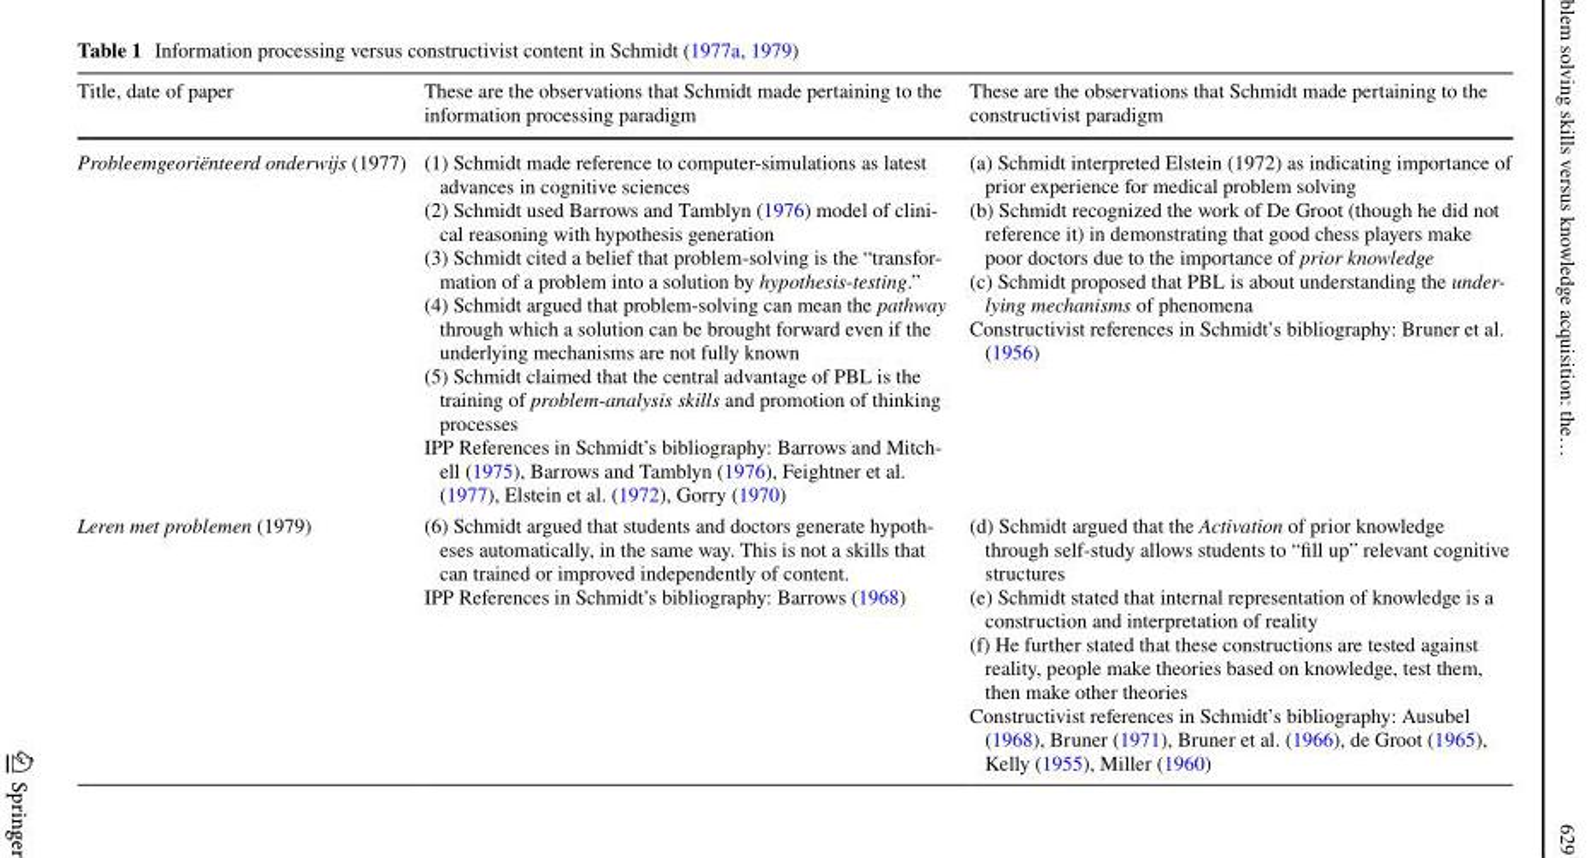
<table><thead><tr><td>Title, date of paper</td><td>These are the observations that Schmidt made pertaining to the information processing paradigm</td><td>These are the observations that Schmidt made pertaining to the constructivist paradigm</td></tr></thead><tbody><tr><td>Probleemgeoriënteerd onderwijs (1977)</td><td>(1) Schmidt made reference to computer-simulations as latest advances in cognitive sciences (2) Schmidt used Barrows and Tamblyn (1976) model of clini- cal reasoning with hypothesis generation (3) Schmidt cited a belief that problem-solving is the “transfor- mation of a problem into a solution by hypothesis-testing.” (4) Schmidt argued that problem-solving can mean the pathway through which a solution can be brought forward even if the underlying mechanisms are not fully known (5) Schmidt claimed that the central advantage of PBL is the training of problem-analysis skills and promotion of thinking processes IPP References in Schmidt’s bibliography: Barrows and Mitch- ell (1975), Barrows and Tamblyn (1976), Feightner et al. (1977), Elstein et al. (1972), Gorry (1970)</td><td>(a) Schmidt interpreted Elstein (1972) as indicating importance of prior experience for medical problem solving (b) Schmidt recognized the work of De Groot (though he did not reference it) in demonstrating that good chess players make poor doctors due to the importance of prior knowledge (c) Schmidt proposed that PBL is about understanding the under- lying mechanisms of phenomena Constructivist references in Schmidt’s bibliography: Bruner et al. (1956)</td></tr><tr><td>Leren met problemen (1979)</td><td>(6) Schmidt argued that students and doctors generate hypoth- eses automatically, in the same way. This is not a skills that can trained or improved independently of content. IPP References in Schmidt’s bibliography: Barrows (1968)</td><td>(d) Schmidt argued that the Activation of prior knowledge through self-study allows students to “fill up” relevant cognitive structures (e) Schmidt stated that internal representation of knowledge is a construction and interpretation of reality (f) He further stated that these constructions are tested against reality, people make theories based on knowledge, test them, then make other theories Constructivist references in Schmidt’s bibliography: Ausubel (1968), Bruner (1971), Bruner et al. (1966), de Groot (1965), Kelly (1955), Miller (1960)</td></tr></tbody></table>